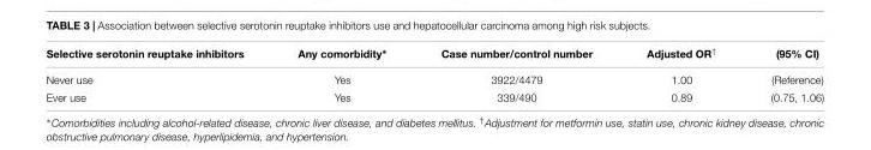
<table><thead><tr><td>Selective serotonin reuptake inhibitors</td><td>Any comorbidity∗</td><td>Case number/control number</td><td>Adjusted OR<sup>†</sup></td><td>(95% CI)</td></tr></thead><tbody><tr><td>Never use</td><td>Yes</td><td>3922/4479</td><td>1.00</td><td>(Reference)</td></tr><tr><td>Ever use</td><td>Yes</td><td>339/490</td><td>0.89</td><td>(0.75, 1.06)</td></tr></tbody></table>